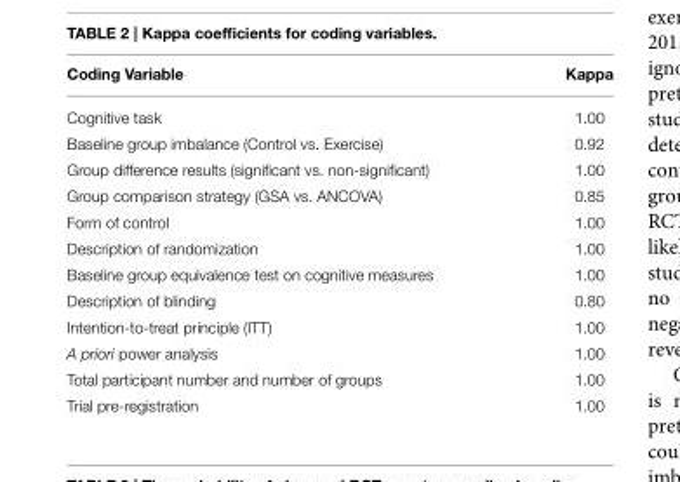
<table><thead><tr><td>Coding Variable</td><td>Kappa</td></tr></thead><tbody><tr><td>Cognitive task</td><td>1.00</td></tr><tr><td>Baseline group imbalance (Control vs. Exercise)</td><td>0.92</td></tr><tr><td>Group difference results (significant vs. non-significant)</td><td>1.00</td></tr><tr><td>Group comparison strategy (GSA vs. ANCOVA)</td><td>0.85</td></tr><tr><td>Form of control</td><td>1.00</td></tr><tr><td>Description of randomization</td><td>1.00</td></tr><tr><td>Baseline group equivalence test on cognitive measures</td><td>1.00</td></tr><tr><td>Description of blinding</td><td>0.80</td></tr><tr><td>Intention-to-treat principle (ITT)</td><td>1.00</td></tr><tr><td>A priori power analysis</td><td>1.00</td></tr><tr><td>Total participant number and number of groups</td><td>1.00</td></tr><tr><td>Trial pre-registration</td><td>1.00</td></tr></tbody></table>